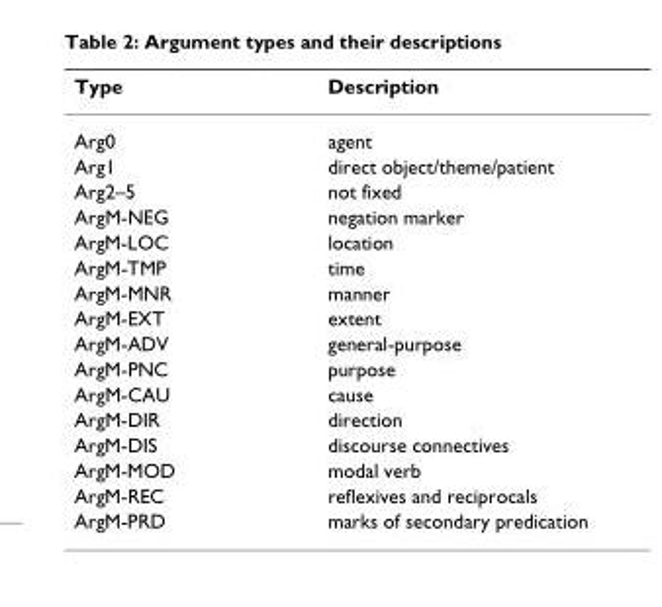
<table><thead><tr><td>Type</td><td>Description</td></tr></thead><tbody><tr><td>Arg0</td><td>agent</td></tr><tr><td>Arg1</td><td>direct object/theme/patient</td></tr><tr><td>Arg2–5</td><td>not fixed</td></tr><tr><td>ArgM-NEG</td><td>negation marker</td></tr><tr><td>ArgM-LOC</td><td>location</td></tr><tr><td>ArgM-TMP</td><td>time</td></tr><tr><td>ArgM-MNR</td><td>manner</td></tr><tr><td>ArgM-EXT</td><td>extent</td></tr><tr><td>ArgM-ADV</td><td>general-purpose</td></tr><tr><td>ArgM-PNC</td><td>purpose</td></tr><tr><td>ArgM-CAU</td><td>cause</td></tr><tr><td>ArgM-DIR</td><td>direction</td></tr><tr><td>ArgM-DIS</td><td>discourse connectives</td></tr><tr><td>ArgM-MOD</td><td>modal verb</td></tr><tr><td>ArgM-REC</td><td>reflexives and reciprocals</td></tr><tr><td>ArgM-PRD</td><td>marks of secondary predication</td></tr></tbody></table>